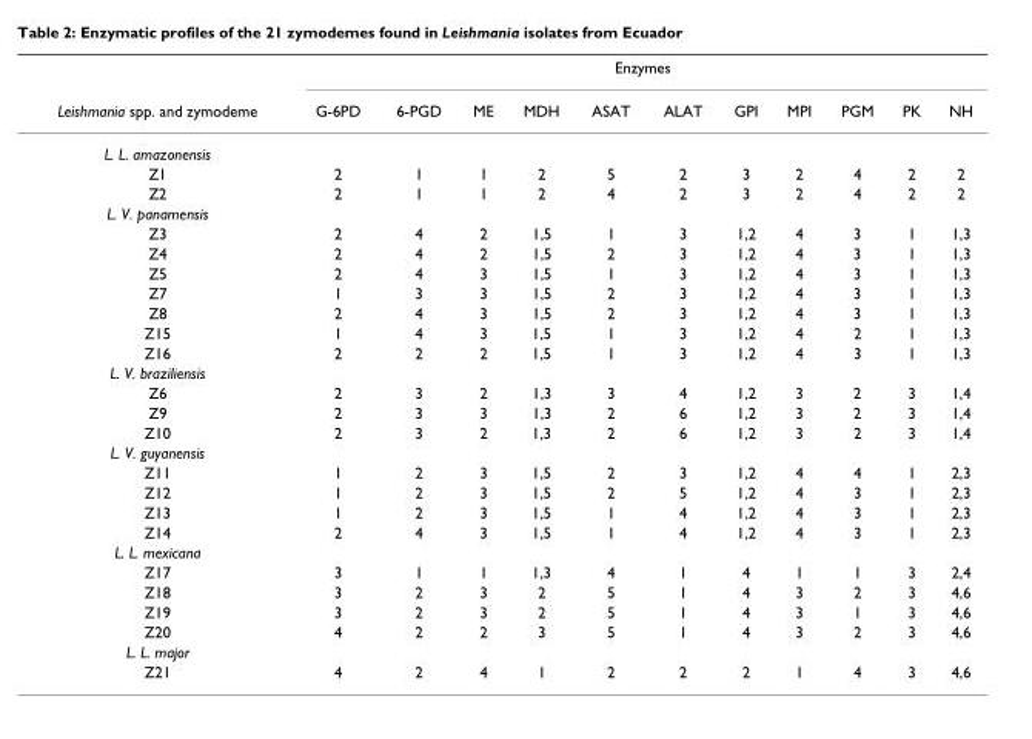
<table><thead><tr><td rowspan="2">Leishmania spp. and zymodeme</td><td colspan="11">Enzymes</td></tr><tr><td>G-6PD</td><td>6-PGD</td><td>ME</td><td>MDH</td><td>ASAT</td><td>ALAT</td><td>GPI</td><td>MPI</td><td>PGM</td><td>PK</td><td>NH</td></tr></thead><tbody><tr><td colspan="12">L. L. amazonensis</td></tr><tr><td>Z1</td><td>2</td><td>1</td><td>1</td><td>2</td><td>5</td><td>2</td><td>3</td><td>2</td><td>4</td><td>2</td><td>2</td></tr><tr><td>Z2</td><td>2</td><td>1</td><td>1</td><td>2</td><td>4</td><td>2</td><td>3</td><td>2</td><td>4</td><td>2</td><td>2</td></tr><tr><td colspan="12">L. V. panamensis</td></tr><tr><td>Z3</td><td>2</td><td>4</td><td>2</td><td>1,5</td><td>1</td><td>3</td><td>1,2</td><td>4</td><td>3</td><td>1</td><td>1,3</td></tr><tr><td>Z4</td><td>2</td><td>4</td><td>2</td><td>1,5</td><td>2</td><td>3</td><td>1,2</td><td>4</td><td>3</td><td>1</td><td>1,3</td></tr><tr><td>Z5</td><td>2</td><td>4</td><td>3</td><td>1,5</td><td>1</td><td>3</td><td>1,2</td><td>4</td><td>3</td><td>1</td><td>1,3</td></tr><tr><td>Z7</td><td>1</td><td>3</td><td>3</td><td>1,5</td><td>2</td><td>3</td><td>1,2</td><td>4</td><td>3</td><td>1</td><td>1,3</td></tr><tr><td>Z8</td><td>2</td><td>4</td><td>3</td><td>1,5</td><td>2</td><td>3</td><td>1,2</td><td>4</td><td>3</td><td>1</td><td>1,3</td></tr><tr><td>Z15</td><td>1</td><td>4</td><td>3</td><td>1,5</td><td>1</td><td>3</td><td>1,2</td><td>4</td><td>2</td><td>1</td><td>1,3</td></tr><tr><td>Z16</td><td>2</td><td>2</td><td>2</td><td>1,5</td><td>1</td><td>3</td><td>1,2</td><td>4</td><td>3</td><td>1</td><td>1,3</td></tr><tr><td colspan="12">L. V. braziliensis</td></tr><tr><td>Z6</td><td>2</td><td>3</td><td>2</td><td>1,3</td><td>3</td><td>4</td><td>1,2</td><td>3</td><td>2</td><td>3</td><td>1,4</td></tr><tr><td>Z9</td><td>2</td><td>3</td><td>3</td><td>1,3</td><td>2</td><td>6</td><td>1,2</td><td>3</td><td>2</td><td>3</td><td>1,4</td></tr><tr><td>Z10</td><td>2</td><td>3</td><td>2</td><td>1,3</td><td>2</td><td>6</td><td>1,2</td><td>3</td><td>2</td><td>3</td><td>1,4</td></tr><tr><td colspan="12">L. V. guyanensis</td></tr><tr><td>Z11</td><td>1</td><td>2</td><td>3</td><td>1,5</td><td>2</td><td>3</td><td>1,2</td><td>4</td><td>4</td><td>1</td><td>2,3</td></tr><tr><td>Z12</td><td>1</td><td>2</td><td>3</td><td>1,5</td><td>2</td><td>5</td><td>1,2</td><td>4</td><td>3</td><td>1</td><td>2,3</td></tr><tr><td>Z13</td><td>1</td><td>2</td><td>3</td><td>1,5</td><td>1</td><td>4</td><td>1,2</td><td>4</td><td>3</td><td>1</td><td>2,3</td></tr><tr><td>Z14</td><td>2</td><td>4</td><td>3</td><td>1,5</td><td>1</td><td>4</td><td>1,2</td><td>4</td><td>3</td><td>1</td><td>2,3</td></tr><tr><td colspan="12">L. L. mexicana</td></tr><tr><td>Z17</td><td>3</td><td>1</td><td>1</td><td>1,3</td><td>4</td><td>1</td><td>4</td><td>1</td><td>1</td><td>3</td><td>2,4</td></tr><tr><td>Z18</td><td>3</td><td>2</td><td>3</td><td>2</td><td>5</td><td>1</td><td>4</td><td>3</td><td>2</td><td>3</td><td>4,6</td></tr><tr><td>Z19</td><td>3</td><td>2</td><td>3</td><td>2</td><td>5</td><td>1</td><td>4</td><td>3</td><td>1</td><td>3</td><td>4,6</td></tr><tr><td>Z20</td><td>4</td><td>2</td><td>2</td><td>3</td><td>5</td><td>1</td><td>4</td><td>3</td><td>2</td><td>3</td><td>4,6</td></tr><tr><td colspan="12">L. L. major</td></tr><tr><td>Z21</td><td>4</td><td>2</td><td>4</td><td>1</td><td>2</td><td>2</td><td>2</td><td>1</td><td>4</td><td>3</td><td>4,6</td></tr></tbody></table>